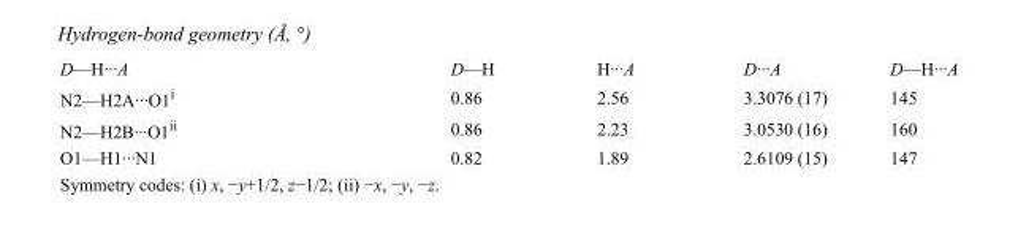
<table><tbody><tr><td>D—H···A</td><td>D—H</td><td>H···A</td><td>D···A</td><td>D—H···A</td></tr><tr><td>N2—H2A···O1<sup>i</sup></td><td>0.86</td><td>2.56</td><td>3.3076 (17)</td><td>145</td></tr><tr><td>N2—H2B···O1<sup>ii</sup></td><td>0.86</td><td>2.23</td><td>3.0530 (16)</td><td>160</td></tr><tr><td>O1—H1···N1</td><td>0.82</td><td>1.89</td><td>2.6109 (15)</td><td>147</td></tr></tbody></table>